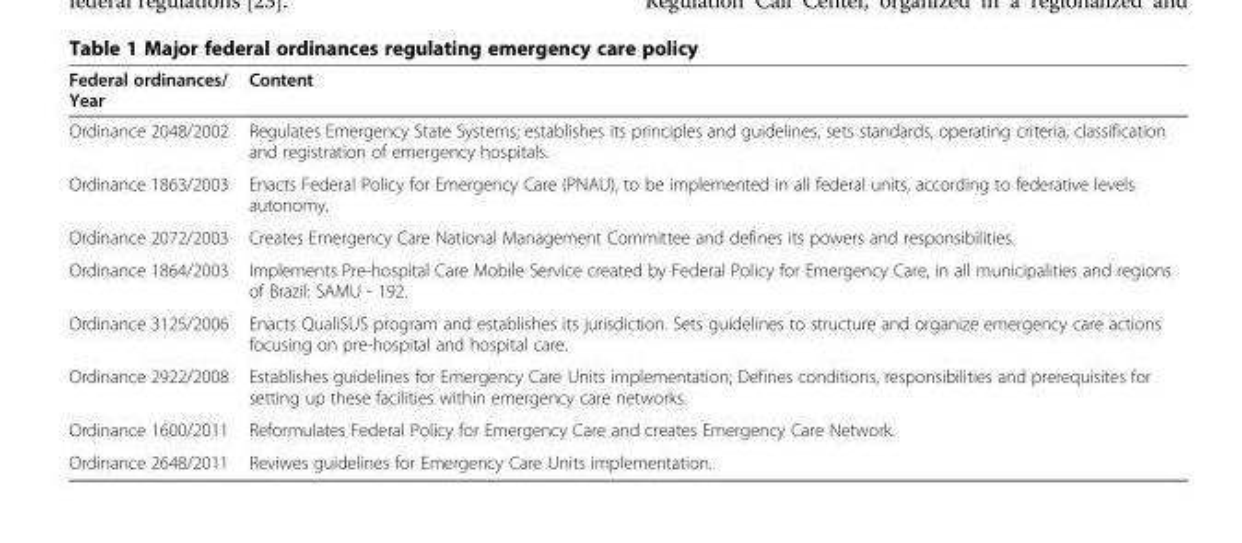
<table><thead><tr><td>Federal ordinances/ Year</td><td>Content</td></tr></thead><tbody><tr><td>Ordinance 2048/2002</td><td>Regulates Emergency State Systems; establishes its principles and guidelines, sets standards, operating criteria, classification and registration of emergency hospitals.</td></tr><tr><td>Ordinance 1863/2003</td><td>Enacts Federal Policy for Emergency Care (PNAU), to be implemented in all federal units, according to federative levels autonomy.</td></tr><tr><td>Ordinance 2072/2003</td><td>Creates Emergency Care National Management Committee and defines its powers and responsibilities.</td></tr><tr><td>Ordinance 1864/2003</td><td>Implements Pre-hospital Care Mobile Service created by Federal Policy for Emergency Care, in all municipalities and regions of Brazil: SAMU - 192.</td></tr><tr><td>Ordinance 3125/2006</td><td>Enacts QualiSUS program and establishes its jurisdiction. Sets guidelines to structure and organize emergency care actions focusing on pre-hospital and hospital care.</td></tr><tr><td>Ordinance 2922/2008</td><td>Establishes guidelines for Emergency Care Units implementation; Defines conditions, responsibilities and prerequisites for setting up these facilities within emergency care networks.</td></tr><tr><td>Ordinance 1600/2011</td><td>Reformulates Federal Policy for Emergency Care and creates Emergency Care Network.</td></tr><tr><td>Ordinance 2648/2011</td><td>Reviwes guidelines for Emergency Care Units implementation.</td></tr></tbody></table>